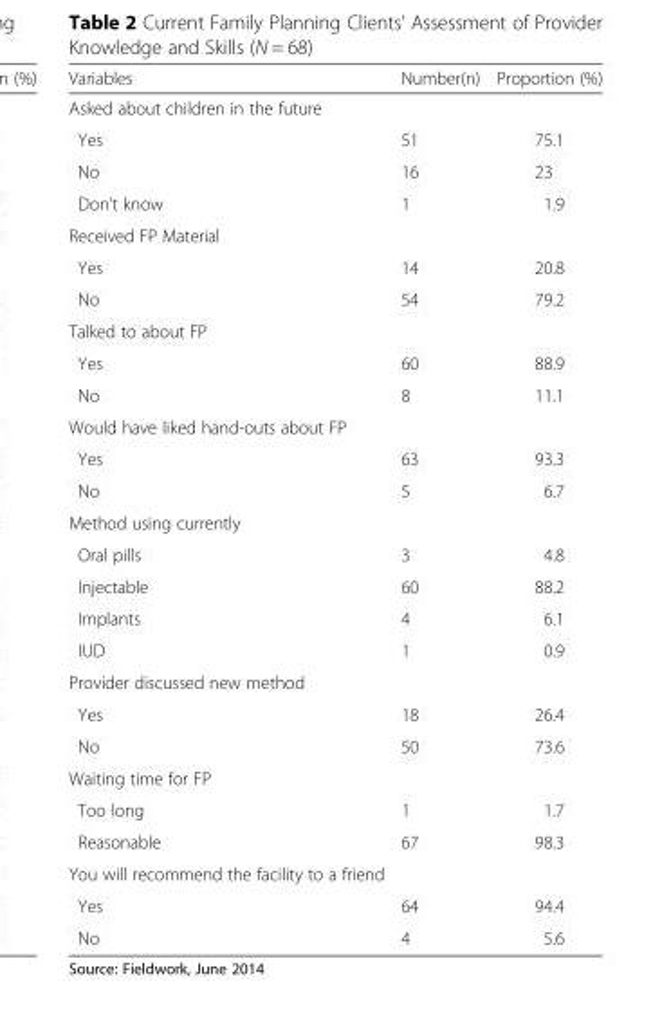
<table><thead><tr><td>Variables</td><td>Number(n)</td><td>Proportion (%)</td></tr></thead><tbody><tr><td colspan="3">Asked about children in the future</td></tr><tr><td>Yes</td><td>51</td><td>75.1</td></tr><tr><td>No</td><td>16</td><td>23</td></tr><tr><td>Don’t know</td><td>1</td><td>1.9</td></tr><tr><td colspan="3">Received FP Material</td></tr><tr><td>Yes</td><td>14</td><td>20.8</td></tr><tr><td>No</td><td>54</td><td>79.2</td></tr><tr><td colspan="3">Talked to about FP</td></tr><tr><td>Yes</td><td>60</td><td>88.9</td></tr><tr><td>No</td><td>8</td><td>11.1</td></tr><tr><td colspan="3">Would have liked hand-outs about FP</td></tr><tr><td>Yes</td><td>63</td><td>93.3</td></tr><tr><td>No</td><td>5</td><td>6.7</td></tr><tr><td colspan="3">Method using currently</td></tr><tr><td>Oral pills</td><td>3</td><td>4.8</td></tr><tr><td>Injectable</td><td>60</td><td>88.2</td></tr><tr><td>Implants</td><td>4</td><td>6.1</td></tr><tr><td>IUD</td><td>1</td><td>0.9</td></tr><tr><td colspan="3">Provider discussed new method</td></tr><tr><td>Yes</td><td>18</td><td>26.4</td></tr><tr><td>No</td><td>50</td><td>73.6</td></tr><tr><td colspan="3">Waiting time for FP</td></tr><tr><td>Too long</td><td>1</td><td>1.7</td></tr><tr><td>Reasonable</td><td>67</td><td>98.3</td></tr><tr><td colspan="3">You will recommend the facility to a friend</td></tr><tr><td>Yes</td><td>64</td><td>94.4</td></tr><tr><td>No</td><td>4</td><td>5.6</td></tr></tbody></table>